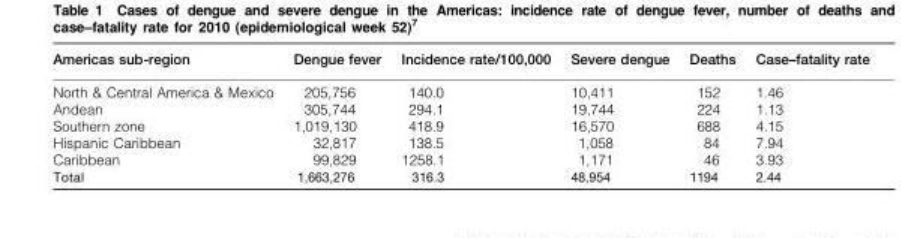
<table><thead><tr><td>Americas sub-region</td><td>Dengue fever</td><td>Incidence rate/100,000</td><td>Severe dengue</td><td>Deaths</td><td>Case–fatality rate</td></tr></thead><tbody><tr><td>North &amp; Central America &amp; Mexico</td><td>205,756</td><td>140.0</td><td>10,411</td><td>152</td><td>1.46</td></tr><tr><td>Andean</td><td>305,744</td><td>294.1</td><td>19,744</td><td>224</td><td>1.13</td></tr><tr><td>Southern zone</td><td>1,019,130</td><td>418.9</td><td>16,570</td><td>688</td><td>4.15</td></tr><tr><td>Hispanic Caribbean</td><td>32,817</td><td>138.5</td><td>1,058</td><td>84</td><td>7.94</td></tr><tr><td>Caribbean</td><td>99,829</td><td>1258.1</td><td>1,171</td><td>46</td><td>3.93</td></tr><tr><td>Total</td><td>1,663,276</td><td>316.3</td><td>48,954</td><td>1194</td><td>2.44</td></tr></tbody></table>